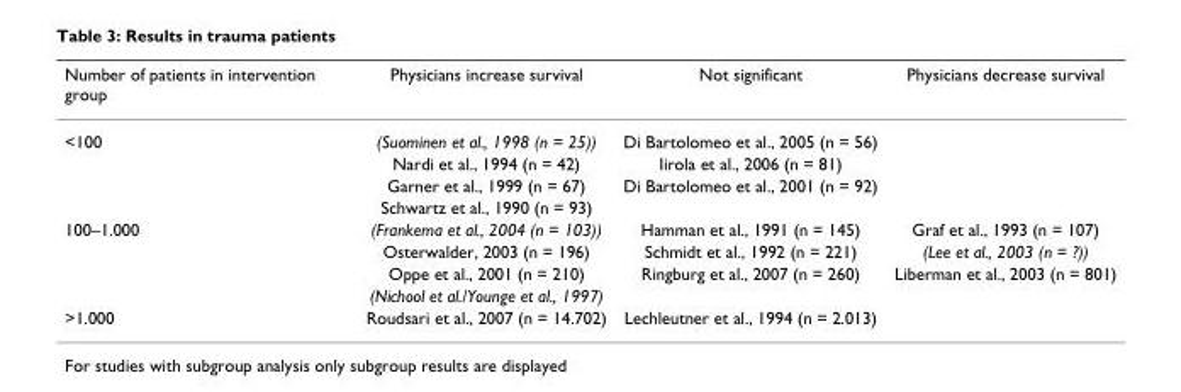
<table><thead><tr><td>Number of patients in intervention group</td><td>Physicians increase survival</td><td>Not significant</td><td>Physicians decrease survival</td></tr></thead><tbody><tr><td rowspan="4">&lt;100</td><td>(Suominen et al., 1998 (n = 25))</td><td>Di Bartolomeo et al., 2005 (n = 56)</td><td></td></tr><tr><td>Nardi et al., 1994 (n = 42)</td><td>Iirola et al., 2006 (n = 81)</td><td></td></tr><tr><td>Garner et al., 1999 (n = 67)</td><td>Di Bartolomeo et al., 2001 (n = 92)</td><td></td></tr><tr><td>Schwartz et al., 1990 (n = 93)</td><td></td><td></td></tr><tr><td rowspan="4">100–1.000</td><td>(Frankema et al., 2004 (n = 103))</td><td>Hamman et al., 1991 (n = 145)</td><td>Graf et al., 1993 (n = 107)</td></tr><tr><td>Osterwalder, 2003 (n = 196)</td><td>Schmidt et al., 1992 (n = 221)</td><td>(Lee et al., 2003 (n = ?))</td></tr><tr><td>Oppe et al., 2001 (n = 210)</td><td>Ringburg et al., 2007 (n = 260)</td><td>Liberman et al., 2003 (n = 801)</td></tr><tr><td>(Nichool et al./Younge et al., 1997)</td><td></td><td></td></tr><tr><td>&gt;1.000</td><td>Roudsari et al., 2007 (n = 14.702)</td><td>Lechleutner et al., 1994 (n = 2.013)</td><td></td></tr></tbody></table>